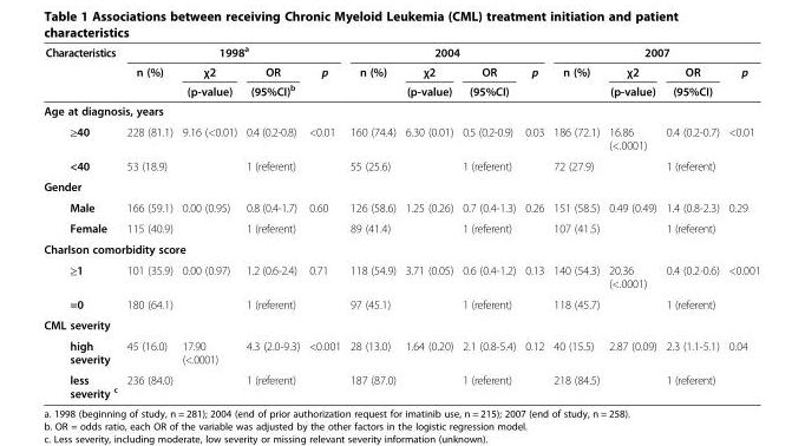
<table><thead><tr><td rowspan="3">Characteristics</td><td colspan="4">1998<sup>a</sup></td><td colspan="4">2004</td><td colspan="4">2007</td></tr><tr><td rowspan="2">n (%)</td><td rowspan="2">χ2 (p-value)</td><td rowspan="2">OR (95%CI)<sup>b</sup></td><td rowspan="2">p</td><td rowspan="2">n (%)</td><td rowspan="2">χ2 (p-value)</td><td rowspan="2">OR (95%CI)</td><td rowspan="2">p</td><td rowspan="2">n (%)</td><td rowspan="2">χ2 (p-value)</td><td rowspan="2">OR (95%CI)</td><td rowspan="2">p</td></tr><tr></tr></thead><tbody><tr><td colspan="13">Age at diagnosis, years</td></tr><tr><td>≥40</td><td>228 (81.1)</td><td>9.16 (&lt;0.01)</td><td>0.4 (0.2-0.8)</td><td>&lt;0.01</td><td>160 (74.4)</td><td>6.30 (0.01)</td><td>0.5 (0.2-0.9)</td><td>0.03</td><td>186 (72.1)</td><td>16.86 (&lt;.0001)</td><td>0.4 (0.2-0.7)</td><td>&lt;0.01</td></tr><tr><td>&lt;40</td><td>53 (18.9)</td><td></td><td>1 (referent)</td><td></td><td>55 (25.6)</td><td></td><td>1 (referent)</td><td></td><td>72 (27.9)</td><td></td><td>1 (referent)</td><td></td></tr><tr><td colspan="13">Gender</td></tr><tr><td>Male</td><td>166 (59.1)</td><td>0.00 (0.95)</td><td>0.8 (0.4-1.7)</td><td>0.60</td><td>126 (58.6)</td><td>1.25 (0.26)</td><td>0.7 (0.4-1.3)</td><td>0.26</td><td>151 (58.5)</td><td>0.49 (0.49)</td><td>1.4 (0.8-2.3)</td><td>0.29</td></tr><tr><td>Female</td><td>115 (40.9)</td><td></td><td>1 (referent)</td><td></td><td>89 (41.4)</td><td></td><td>1 (referent)</td><td></td><td>107 (41.5)</td><td></td><td>1 (referent)</td><td></td></tr><tr><td colspan="13">Charlson comorbidity score</td></tr><tr><td>≥1</td><td>101 (35.9)</td><td>0.00 (0.97)</td><td>1.2 (0.6-2.4)</td><td>0.71</td><td>118 (54.9)</td><td>3.71 (0.05)</td><td>0.6 (0.4-1.2)</td><td>0.13</td><td>140 (54.3)</td><td>20.36 (&lt;.0001)</td><td>0.4 (0.2-0.6)</td><td>&lt;0.001</td></tr><tr><td>=0</td><td>180 (64.1)</td><td></td><td>1 (referent)</td><td></td><td>97 (45.1)</td><td></td><td>1 (referent)</td><td></td><td>118 (45.7)</td><td></td><td>1 (referent)</td><td></td></tr><tr><td colspan="13">CML severity</td></tr><tr><td>high severity</td><td>45 (16.0)</td><td>17.90 (&lt;.0001)</td><td>4.3 (2.0-9.3)</td><td>&lt;0.001</td><td>28 (13.0)</td><td>1.64 (0.20)</td><td>2.1 (0.8-5.4)</td><td>0.12</td><td>40 (15.5)</td><td>2.87 (0.09)</td><td>2.3 (1.1-5.1)</td><td>0.04</td></tr><tr><td>less severity <sup>c</sup></td><td>236 (84.0)</td><td></td><td>1 (referent)</td><td></td><td>187 (87.0)</td><td></td><td>1 (referent)</td><td></td><td>218 (84.5)</td><td></td><td>1 (referent)</td><td></td></tr></tbody></table>